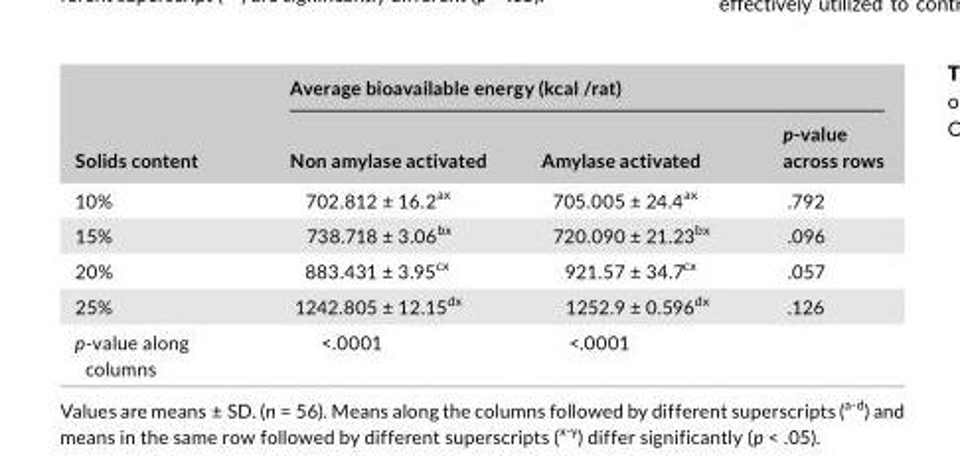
<table><thead><tr><td rowspan="2">Solids content</td><td colspan="3">Average bioavailable energy (kcal /rat)</td></tr><tr><td>Non amylase activated</td><td>Amylase activated</td><td>p- value across rows</td></tr></thead><tbody><tr><td>10%</td><td>702.812 ± 16.2<sup>ax</sup></td><td>705.005 ± 24.4<sup>ax</sup></td><td>.792</td></tr><tr><td>15%</td><td>738.718 ± 3.06<sup>bx</sup></td><td>720.090 ± 21.23<sup>bx</sup></td><td>.096</td></tr><tr><td>20%</td><td>883.431 ± 3.95<sup>cx</sup></td><td>921.57 ± 34.7<sup>cx</sup></td><td>.057</td></tr><tr><td>25%</td><td>1242.805 ± 12.15<sup>dx</sup></td><td>1252.9 ± 0.596<sup>dx</sup></td><td>.126</td></tr><tr><td>p- value along columns</td><td>&lt;.0001</td><td>&lt;.0001</td><td></td></tr></tbody></table>